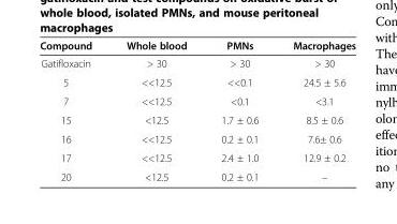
<table><thead><tr><td>Compound</td><td>Whole blood</td><td>PMNs</td><td>Macrophages</td></tr></thead><tbody><tr><td>Gatifloxacin</td><td>&gt; 30</td><td>&gt; 30</td><td>&gt; 30</td></tr><tr><td>5</td><td>&lt;&lt;12.5</td><td>&lt;&lt;0.1</td><td>24.5 ± 5.6</td></tr><tr><td>7</td><td>&lt;&lt;12.5</td><td>&lt;0.1</td><td>&lt;3.1</td></tr><tr><td>15</td><td>&lt;12.5</td><td>1.7 ± 0.6</td><td>8.5 ± 0.6</td></tr><tr><td>16</td><td>&lt;&lt;12.5</td><td>0.2 ± 0.1</td><td>7.6± 0.6</td></tr><tr><td>17</td><td>&lt;&lt;12.5</td><td>2.4 ± 1.0</td><td>12.9 ± 0.2</td></tr><tr><td>20</td><td>&lt;12.5</td><td>0.2 ± 0.1</td><td>–</td></tr></tbody></table>